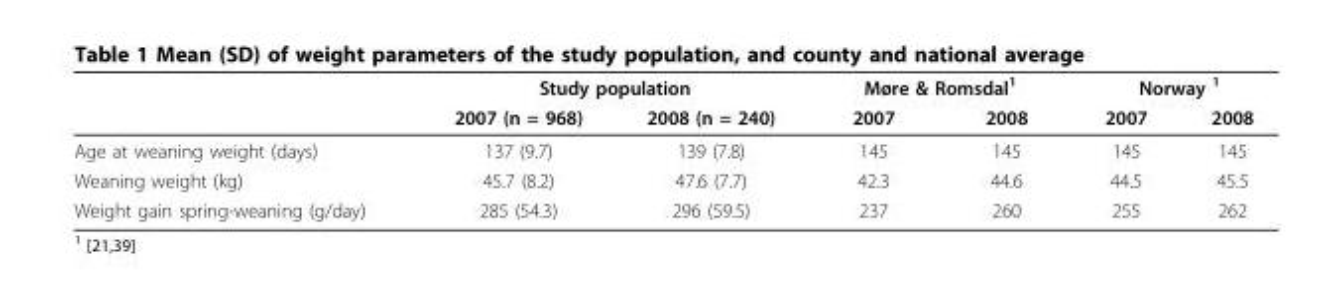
<table><thead><tr><td rowspan="2"></td><td colspan="2">Study population</td><td colspan="2">Møre &amp; Romsdal<sup>1</sup></td><td colspan="2">Norway <sup>1</sup></td></tr><tr><td>2007 (n = 968)</td><td>2008 (n = 240)</td><td>2007</td><td>2008</td><td>2007</td><td>2008</td></tr></thead><tbody><tr><td>Age at weaning weight (days)</td><td>137 (9.7)</td><td>139 (7.8)</td><td>145</td><td>145</td><td>145</td><td>145</td></tr><tr><td>Weaning weight (kg)</td><td>45.7 (8.2)</td><td>47.6 (7.7)</td><td>42.3</td><td>44.6</td><td>44.5</td><td>45.5</td></tr><tr><td>Weight gain spring-weaning (g/day)</td><td>285 (54.3)</td><td>296 (59.5)</td><td>237</td><td>260</td><td>255</td><td>262</td></tr></tbody></table>